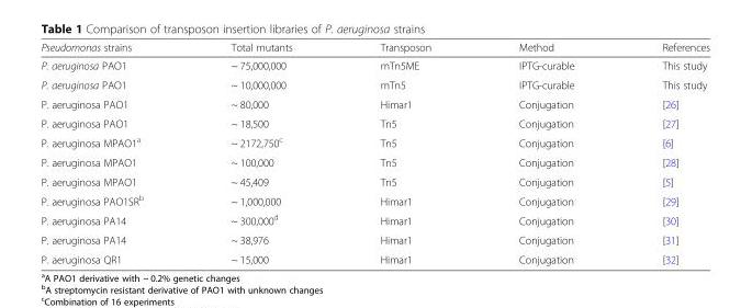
<table><thead><tr><td>Pseudomonas strains</td><td>Total mutants</td><td>Transposon</td><td>Method</td><td>References</td></tr></thead><tbody><tr><td>P. aeruginosa PAO1</td><td>~ 75,000,000</td><td>mTn5ME</td><td>IPTG-curable</td><td>This study</td></tr><tr><td>P. aeruginosa PAO1</td><td>~ 10,000,000</td><td>mTn5</td><td>IPTG-curable</td><td>This study</td></tr><tr><td>P. aeruginosa PAO1</td><td>~ 80,000</td><td>Himar1</td><td>Conjugation</td><td>[26]</td></tr><tr><td>P. aeruginosa PAO1</td><td>~ 18,500</td><td>Tn5</td><td>Conjugation</td><td>[27]</td></tr><tr><td>P. aeruginosa MPAO1<sup>a</sup></td><td>~ 2172,750<sup>c</sup></td><td>Tn5</td><td>Conjugation</td><td>[6]</td></tr><tr><td>P. aeruginosa MPAO1</td><td>~ 100,000</td><td>Tn5</td><td>Conjugation</td><td>[28]</td></tr><tr><td>P. aeruginosa MPAO1</td><td>~ 45,409</td><td>Tn5</td><td>Conjugation</td><td>[5]</td></tr><tr><td>P. aeruginosa PAO1SR<sup>b</sup></td><td>~ 1,000,000</td><td>Himar1</td><td>Conjugation</td><td>[29]</td></tr><tr><td>P. aeruginosa PA14</td><td>~ 300,000<sup>d</sup></td><td>Himar1</td><td>Conjugation</td><td>[30]</td></tr><tr><td>P. aeruginosa PA14</td><td>~ 38,976</td><td>Himar1</td><td>Conjugation</td><td>[31]</td></tr><tr><td>P. aeruginosa QR1</td><td>~ 15,000</td><td>Himar1</td><td>Conjugation</td><td>[32]</td></tr></tbody></table>